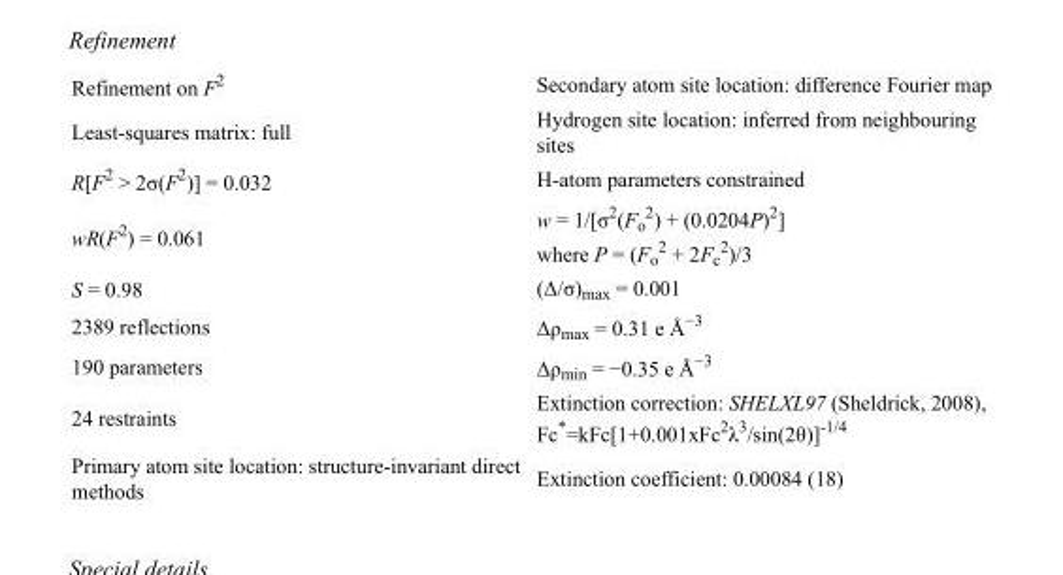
<table><tbody><tr><td>Refinement on F<sup>2</sup></td><td>Secondary atom site location: difference Fourier map</td></tr><tr><td>Least-squares matrix: full</td><td>Hydrogen site location: inferred from neighbouring sites</td></tr><tr><td>R[F<sup>2</sup> &gt; 2σ(F<sup>2</sup>)] = 0.032</td><td>H-atom parameters constrained</td></tr><tr><td>wR(F<sup>2</sup>) = 0.061</td><td>w = 1/[σ<sup>2</sup>(F<sub>o</sub> <sup>2</sup>) + (0.0204P)<sup>2</sup>] where P = (F<sub>o</sub> <sup>2</sup> + 2F<sub>c</sub> <sup>2</sup>)/3</td></tr><tr><td>S = 0.98</td><td>(Δ/σ)<sub>max</sub> = 0.001</td></tr><tr><td>2389 reflections</td><td>Δρ<sub>max</sub> = 0.31 e Å<sup>−3</sup></td></tr><tr><td>190 parameters</td><td>Δρ<sub>min</sub> = −0.35 e Å<sup>−3</sup></td></tr><tr><td>24 restraints</td><td>Extinction correction: SHELXL97 (Sheldrick, 2008), Fc*=kFc[1+0.001xFc<sup>2</sup>λ<sup>3</sup>/sin(2θ)]<sup>-1/4</sup></td></tr><tr><td>Primary atom site location: structure-invariant direct methods</td><td>Extinction coefficient: 0.00084 (18)</td></tr></tbody></table>